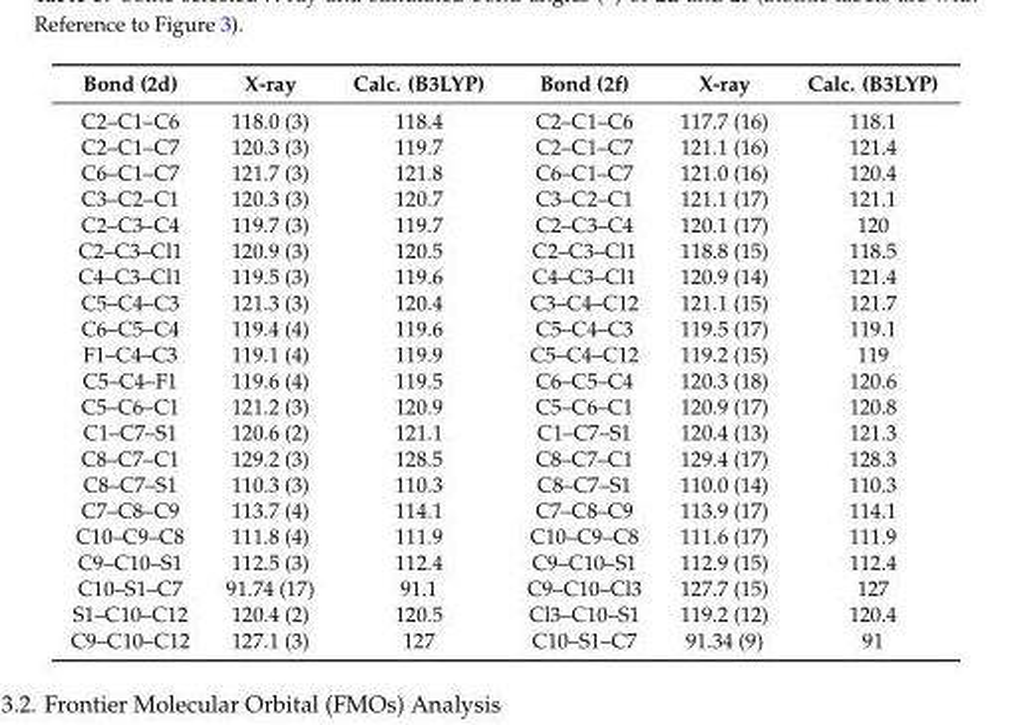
<table><thead><tr><td>Bond (2d)</td><td>X-ray</td><td>Calc. (B3LYP)</td><td>Bond (2f)</td><td>X-ray</td><td>Calc. (B3LYP)</td></tr></thead><tbody><tr><td>C2–C1–C6</td><td>118.0 (3)</td><td>118.4</td><td>C2–C1–C6</td><td>117.7 (16)</td><td>118.1</td></tr><tr><td>C2–C1–C7</td><td>120.3 (3)</td><td>119.7</td><td>C2–C1–C7</td><td>121.1 (16)</td><td>121.4</td></tr><tr><td>C6–C1–C7</td><td>121.7 (3)</td><td>121.8</td><td>C6–C1–C7</td><td>121.0 (16)</td><td>120.4</td></tr><tr><td>C3–C2–C1</td><td>120.3 (3)</td><td>120.7</td><td>C3–C2–C1</td><td>121.1 (17)</td><td>121.1</td></tr><tr><td>C2–C3–C4</td><td>119.7 (3)</td><td>119.7</td><td>C2–C3–C4</td><td>120.1 (17)</td><td>120</td></tr><tr><td>C2–C3–Cl1</td><td>120.9 (3)</td><td>120.5</td><td>C2–C3–Cl1</td><td>118.8 (15)</td><td>118.5</td></tr><tr><td>C4–C3–Cl1</td><td>119.5 (3)</td><td>119.6</td><td>C4–C3–Cl1</td><td>120.9 (14)</td><td>121.4</td></tr><tr><td>C5–C4–C3</td><td>121.3 (3)</td><td>120.4</td><td>C3–C4–C12</td><td>121.1 (15)</td><td>121.7</td></tr><tr><td>C6–C5–C4</td><td>119.4 (4)</td><td>119.6</td><td>C5–C4–C3</td><td>119.5 (17)</td><td>119.1</td></tr><tr><td>F1–C4–C3</td><td>119.1 (4)</td><td>119.9</td><td>C5–C4–C12</td><td>119.2 (15)</td><td>119</td></tr><tr><td>C5–C4–F1</td><td>119.6 (4)</td><td>119.5</td><td>C6–C5–C4</td><td>120.3 (18)</td><td>120.6</td></tr><tr><td>C5–C6–C1</td><td>121.2 (3)</td><td>120.9</td><td>C5–C6–C1</td><td>120.9 (17)</td><td>120.8</td></tr><tr><td>C1–C7–S1</td><td>120.6 (2)</td><td>121.1</td><td>C1–C7–S1</td><td>120.4 (13)</td><td>121.3</td></tr><tr><td>C8–C7–C1</td><td>129.2 (3)</td><td>128.5</td><td>C8–C7–C1</td><td>129.4 (17)</td><td>128.3</td></tr><tr><td>C8–C7–S1</td><td>110.3 (3)</td><td>110.3</td><td>C8–C7–S1</td><td>110.0 (14)</td><td>110.3</td></tr><tr><td>C7–C8–C9</td><td>113.7 (4)</td><td>114.1</td><td>C7–C8–C9</td><td>113.9 (17)</td><td>114.1</td></tr><tr><td>C10–C9–C8</td><td>111.8 (4)</td><td>111.9</td><td>C10–C9–C8</td><td>111.6 (17)</td><td>111.9</td></tr><tr><td>C9–C10–S1</td><td>112.5 (3)</td><td>112.4</td><td>C9–C10–S1</td><td>112.9 (15)</td><td>112.4</td></tr><tr><td>C10–S1–C7</td><td>91.74 (17)</td><td>91.1</td><td>C9–C10–Cl3</td><td>127.7 (15)</td><td>127</td></tr><tr><td>S1–C10–C12</td><td>120.4 (2)</td><td>120.5</td><td>Cl3–C10–S1</td><td>119.2 (12)</td><td>120.4</td></tr><tr><td>C9–C10–C12</td><td>127.1 (3)</td><td>127</td><td>C10–S1–C7</td><td>91.34 (9)</td><td>91</td></tr></tbody></table>